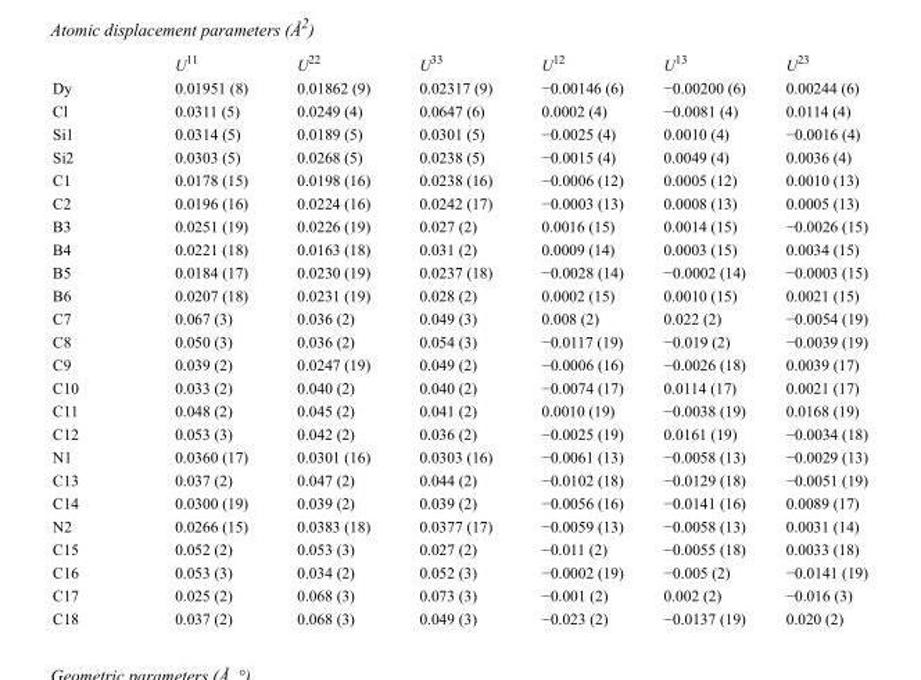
<table><thead><tr><td></td><td>U<sup>11</sup></td><td>U<sup>22</sup></td><td>U<sup>33</sup></td><td>U<sup>12</sup></td><td>U<sup>13</sup></td><td>U<sup>23</sup></td></tr></thead><tbody><tr><td>Dy</td><td>0.01951 (8)</td><td>0.01862 (9)</td><td>0.02317 (9)</td><td>−0.00146 (6)</td><td>−0.00200 (6)</td><td>0.00244 (6)</td></tr><tr><td>Cl</td><td>0.0311 (5)</td><td>0.0249 (4)</td><td>0.0647 (6)</td><td>0.0002 (4)</td><td>−0.0081 (4)</td><td>0.0114 (4)</td></tr><tr><td>Si1</td><td>0.0314 (5)</td><td>0.0189 (5)</td><td>0.0301 (5)</td><td>−0.0025 (4)</td><td>0.0010 (4)</td><td>−0.0016 (4)</td></tr><tr><td>Si2</td><td>0.0303 (5)</td><td>0.0268 (5)</td><td>0.0238 (5)</td><td>−0.0015 (4)</td><td>0.0049 (4)</td><td>0.0036 (4)</td></tr><tr><td>C1</td><td>0.0178 (15)</td><td>0.0198 (16)</td><td>0.0238 (16)</td><td>−0.0006 (12)</td><td>0.0005 (12)</td><td>0.0010 (13)</td></tr><tr><td>C2</td><td>0.0196 (16)</td><td>0.0224 (16)</td><td>0.0242 (17)</td><td>−0.0003 (13)</td><td>0.0008 (13)</td><td>0.0005 (13)</td></tr><tr><td>B3</td><td>0.0251 (19)</td><td>0.0226 (19)</td><td>0.027 (2)</td><td>0.0016 (15)</td><td>0.0014 (15)</td><td>−0.0026 (15)</td></tr><tr><td>B4</td><td>0.0221 (18)</td><td>0.0163 (18)</td><td>0.031 (2)</td><td>0.0009 (14)</td><td>0.0003 (15)</td><td>0.0034 (15)</td></tr><tr><td>B5</td><td>0.0184 (17)</td><td>0.0230 (19)</td><td>0.0237 (18)</td><td>−0.0028 (14)</td><td>−0.0002 (14)</td><td>−0.0003 (15)</td></tr><tr><td>B6</td><td>0.0207 (18)</td><td>0.0231 (19)</td><td>0.028 (2)</td><td>0.0002 (15)</td><td>0.0010 (15)</td><td>0.0021 (15)</td></tr><tr><td>C7</td><td>0.067 (3)</td><td>0.036 (2)</td><td>0.049 (3)</td><td>0.008 (2)</td><td>0.022 (2)</td><td>−0.0054 (19)</td></tr><tr><td>C8</td><td>0.050 (3)</td><td>0.036 (2)</td><td>0.054 (3)</td><td>−0.0117 (19)</td><td>−0.019 (2)</td><td>−0.0039 (19)</td></tr><tr><td>C9</td><td>0.039 (2)</td><td>0.0247 (19)</td><td>0.049 (2)</td><td>−0.0006 (16)</td><td>−0.0026 (18)</td><td>0.0039 (17)</td></tr><tr><td>C10</td><td>0.033 (2)</td><td>0.040 (2)</td><td>0.040 (2)</td><td>−0.0074 (17)</td><td>0.0114 (17)</td><td>0.0021 (17)</td></tr><tr><td>C11</td><td>0.048 (2)</td><td>0.045 (2)</td><td>0.041 (2)</td><td>0.0010 (19)</td><td>−0.0038 (19)</td><td>0.0168 (19)</td></tr><tr><td>C12</td><td>0.053 (3)</td><td>0.042 (2)</td><td>0.036 (2)</td><td>−0.0025 (19)</td><td>0.0161 (19)</td><td>−0.0034 (18)</td></tr><tr><td>N1</td><td>0.0360 (17)</td><td>0.0301 (16)</td><td>0.0303 (16)</td><td>−0.0061 (13)</td><td>−0.0058 (13)</td><td>−0.0029 (13)</td></tr><tr><td>C13</td><td>0.037 (2)</td><td>0.047 (2)</td><td>0.044 (2)</td><td>−0.0102 (18)</td><td>−0.0129 (18)</td><td>−0.0051 (19)</td></tr><tr><td>C14</td><td>0.0300 (19)</td><td>0.039 (2)</td><td>0.039 (2)</td><td>−0.0056 (16)</td><td>−0.0141 (16)</td><td>0.0089 (17)</td></tr><tr><td>N2</td><td>0.0266 (15)</td><td>0.0383 (18)</td><td>0.0377 (17)</td><td>−0.0059 (13)</td><td>−0.0058 (13)</td><td>0.0031 (14)</td></tr><tr><td>C15</td><td>0.052 (2)</td><td>0.053 (3)</td><td>0.027 (2)</td><td>−0.011 (2)</td><td>−0.0055 (18)</td><td>0.0033 (18)</td></tr><tr><td>C16</td><td>0.053 (3)</td><td>0.034 (2)</td><td>0.052 (3)</td><td>−0.0002 (19)</td><td>−0.005 (2)</td><td>−0.0141 (19)</td></tr><tr><td>C17</td><td>0.025 (2)</td><td>0.068 (3)</td><td>0.073 (3)</td><td>−0.001 (2)</td><td>0.002 (2)</td><td>−0.016 (3)</td></tr><tr><td>C18</td><td>0.037 (2)</td><td>0.068 (3)</td><td>0.049 (3)</td><td>−0.023 (2)</td><td>−0.0137 (19)</td><td>0.020 (2)</td></tr></tbody></table>